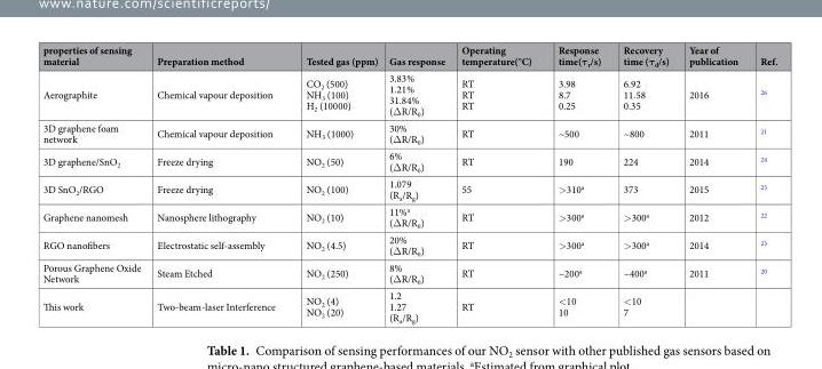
<table><thead><tr><td>properties of sensing material</td><td>Preparation method</td><td>Tested gas (ppm)</td><td>Gas response</td><td>Operating temperature(°C)</td><td>Response time(τ<sub>r</sub>/s)</td><td>Recovery time (τ<sub>d</sub>/s)</td><td>Year of publication</td><td>Ref.</td></tr></thead><tbody><tr><td>Aerographite</td><td>Chemical vapour deposition</td><td>CO<sub>2</sub> (500) NH<sub>3</sub> (100) H<sub>2</sub> (10000)</td><td>3.83% 1.21% 31.84% (ΔR/R<sub>0</sub>)</td><td>RT RT RT</td><td>3.98 8.7 0.25</td><td>6.92 11.58 0.35</td><td>2016</td><td><sup>26</sup></td></tr><tr><td>3D graphene foam network</td><td>Chemical vapour deposition</td><td>NH<sub>3</sub> (1000)</td><td>30% (ΔR/R<sub>0</sub>)</td><td>RT</td><td>~500</td><td>~800</td><td>2011</td><td><sup>21</sup></td></tr><tr><td>3D graphene/SnO<sub>2</sub></td><td>Freeze drying</td><td>NO<sub>2</sub> (50)</td><td>6% (ΔR/R<sub>0</sub>)</td><td>RT</td><td>190</td><td>224</td><td>2014</td><td><sup>24</sup></td></tr><tr><td>3D SnO<sub>2</sub>/RGO</td><td>Freeze drying</td><td>NO<sub>2</sub> (100)</td><td>1.079 (R<sub>a</sub>/R<sub>g</sub>)</td><td>55</td><td>&gt;310<sup>a</sup></td><td>373</td><td>2015</td><td><sup>25</sup></td></tr><tr><td>Graphene nanomesh</td><td>Nanosphere lithography</td><td>NO<sub>2</sub> (10)</td><td>11%<sup>a</sup> (ΔR/R<sub>0</sub>)</td><td>RT</td><td>&gt;300<sup>a</sup></td><td>&gt;300<sup>a</sup></td><td>2012</td><td><sup>22</sup></td></tr><tr><td>RGO nanofibers</td><td>Electrostatic self-assembly</td><td>NO<sub>2</sub> (4.5)</td><td>20% (ΔR/R<sub>0</sub>)</td><td>RT</td><td>&gt;300<sup>a</sup></td><td>&gt;300<sup>a</sup></td><td>2014</td><td><sup>23</sup></td></tr><tr><td>Porous Graphene Oxide Network</td><td>Steam Etched</td><td>NO<sub>2</sub> (250)</td><td>8% (ΔR/R<sub>0</sub>)</td><td>RT</td><td>~200<sup>a</sup></td><td>~400<sup>a</sup></td><td>2011</td><td><sup>20</sup></td></tr><tr><td>This work</td><td>Two-beam-laser Interference</td><td>NO<sub>2</sub> (4) NO<sub>2</sub> (20)</td><td>1.2 1.27 (R<sub>a</sub>/R<sub>g</sub>)</td><td>RT</td><td>&lt;10 10</td><td>&lt;10 7</td><td></td><td></td></tr></tbody></table>